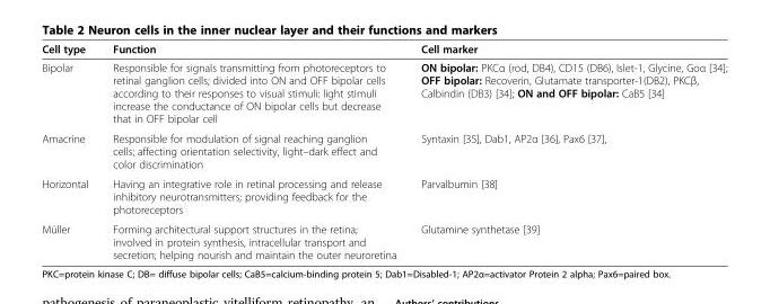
<table><thead><tr><td>Cell type</td><td>Function</td><td>Cell marker</td></tr></thead><tbody><tr><td>Bipolar</td><td>Responsible for signals transmitting from photoreceptors to retinal ganglion cells; divided into ON and OFF bipolar cells according to their responses to visual stimuli: light stimuli increase the conductance of ON bipolar cells but decrease that in OFF bipolar cell</td><td>ON bipolar: PKCα (rod, DB4), CD15 (DB6), Islet-1, Glycine, Goα [34]; OFF bipolar: Recoverin, Glutamate transporter-1(DB2), PKCβ, Calbindin (DB3) [34]; ON and OFF bipolar: CaB5 [34]</td></tr><tr><td>Amacrine</td><td>Responsible for modulation of signal reaching ganglion cells; affecting orientation selectivity, light–dark effect and color discrimination</td><td>Syntaxin [35], Dab1, AP2α [36], Pax6 [37],</td></tr><tr><td>Horizontal</td><td>Having an integrative role in retinal processing and release inhibitory neurotransmitters; providing feedback for the photoreceptors</td><td>Parvalbumin [38]</td></tr><tr><td>Müller</td><td>Forming architectural support structures in the retina; involved in protein synthesis, intracellular transport and secretion; helping nourish and maintain the outer neuroretina</td><td>Glutamine synthetase [39]</td></tr></tbody></table>